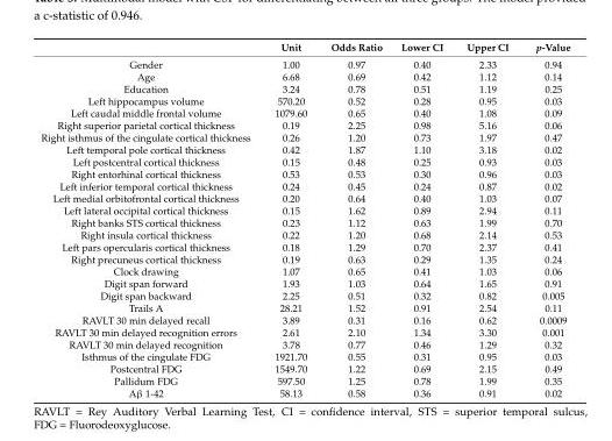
<table><thead><tr><td></td><td>Unit</td><td>Odds Ratio</td><td>Lower CI</td><td>Upper CI</td><td>p-Value</td></tr></thead><tbody><tr><td>Gender</td><td>1.00</td><td>0.97</td><td>0.40</td><td>2.33</td><td>0.94</td></tr><tr><td>Age</td><td>6.68</td><td>0.69</td><td>0.42</td><td>1.12</td><td>0.14</td></tr><tr><td>Education</td><td>3.24</td><td>0.78</td><td>0.51</td><td>1.19</td><td>0.25</td></tr><tr><td>Left hippocampus volume</td><td>570.20</td><td>0.52</td><td>0.28</td><td>0.95</td><td>0.03</td></tr><tr><td>Left caudal middle frontal volume</td><td>1079.60</td><td>0.65</td><td>0.40</td><td>1.08</td><td>0.09</td></tr><tr><td>Right superior parietal cortical thickness</td><td>0.19</td><td>2.25</td><td>0.98</td><td>5.16</td><td>0.06</td></tr><tr><td>Right isthmus of the cingulate cortical thickness</td><td>0.26</td><td>1.20</td><td>0.73</td><td>1.97</td><td>0.47</td></tr><tr><td>Left temporal pole cortical thickness</td><td>0.42</td><td>1.87</td><td>1.10</td><td>3.18</td><td>0.02</td></tr><tr><td>Left postcentral cortical thickness</td><td>0.15</td><td>0.48</td><td>0.25</td><td>0.93</td><td>0.03</td></tr><tr><td>Right entorhinal cortical thickness</td><td>0.53</td><td>0.53</td><td>0.30</td><td>0.96</td><td>0.03</td></tr><tr><td>Left inferior temporal cortical thickness</td><td>0.24</td><td>0.45</td><td>0.24</td><td>0.87</td><td>0.02</td></tr><tr><td>Left medial orbitofrontal cortical thickness</td><td>0.20</td><td>0.64</td><td>0.40</td><td>1.03</td><td>0.07</td></tr><tr><td>Left lateral occipital cortical thickness</td><td>0.15</td><td>1.62</td><td>0.89</td><td>2.94</td><td>0.11</td></tr><tr><td>Right banks STS cortical thickness</td><td>0.23</td><td>1.12</td><td>0.63</td><td>1.99</td><td>0.70</td></tr><tr><td>Right insula cortical thickness</td><td>0.22</td><td>1.20</td><td>0.68</td><td>2.14</td><td>0.53</td></tr><tr><td>Left pars opercularis cortical thickness</td><td>0.18</td><td>1.29</td><td>0.70</td><td>2.37</td><td>0.41</td></tr><tr><td>Right precuneus cortical thickness</td><td>0.19</td><td>0.63</td><td>0.29</td><td>1.35</td><td>0.24</td></tr><tr><td>Clock drawing</td><td>1.07</td><td>0.65</td><td>0.41</td><td>1.03</td><td>0.06</td></tr><tr><td>Digit span forward</td><td>1.93</td><td>1.03</td><td>0.64</td><td>1.65</td><td>0.91</td></tr><tr><td>Digit span backward</td><td>2.25</td><td>0.51</td><td>0.32</td><td>0.82</td><td>0.005</td></tr><tr><td>Trails A</td><td>28.21</td><td>1.52</td><td>0.91</td><td>2.54</td><td>0.11</td></tr><tr><td>RAVLT 30 min delayed recall</td><td>3.89</td><td>0.31</td><td>0.16</td><td>0.62</td><td>0.0009</td></tr><tr><td>RAVLT 30 min delayed recognition errors</td><td>2.61</td><td>2.10</td><td>1.34</td><td>3.30</td><td>0.001</td></tr><tr><td>RAVLT 30 min delayed recognition</td><td>3.78</td><td>0.77</td><td>0.46</td><td>1.29</td><td>0.32</td></tr><tr><td>Isthmus of the cingulate FDG</td><td>1921.70</td><td>0.55</td><td>0.31</td><td>0.95</td><td>0.03</td></tr><tr><td>Postcentral FDG</td><td>1549.70</td><td>1.22</td><td>0.69</td><td>2.15</td><td>0.49</td></tr><tr><td>Pallidum FDG</td><td>597.50</td><td>1.25</td><td>0.78</td><td>1.99</td><td>0.35</td></tr><tr><td>Aβ 1-42</td><td>58.13</td><td>0.58</td><td>0.36</td><td>0.91</td><td>0.02</td></tr></tbody></table>